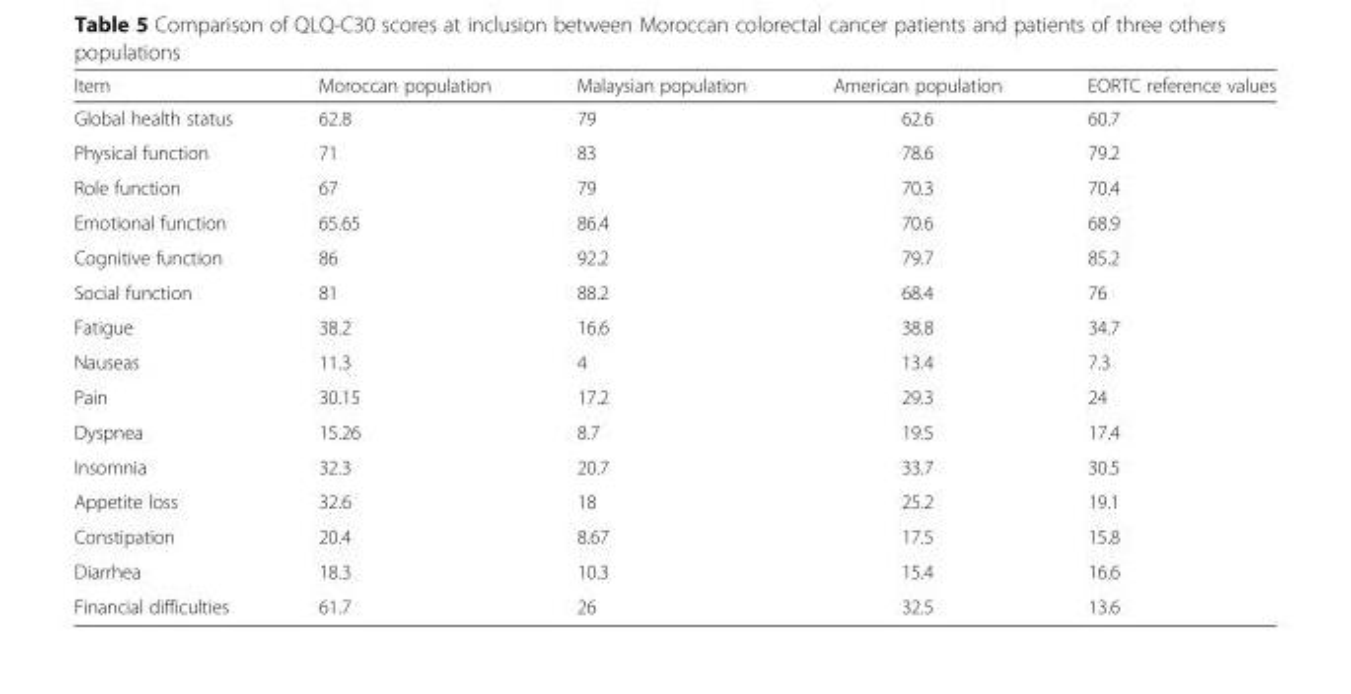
<table><thead><tr><td>Item</td><td>Moroccan population</td><td>Malaysian population</td><td>American population</td><td>EORTC reference values</td></tr></thead><tbody><tr><td>Global health status</td><td>62.8</td><td>79</td><td>62.6</td><td>60.7</td></tr><tr><td>Physical function</td><td>71</td><td>83</td><td>78.6</td><td>79.2</td></tr><tr><td>Role function</td><td>67</td><td>79</td><td>70.3</td><td>70.4</td></tr><tr><td>Emotional function</td><td>65.65</td><td>86.4</td><td>70.6</td><td>68.9</td></tr><tr><td>Cognitive function</td><td>86</td><td>92.2</td><td>79.7</td><td>85.2</td></tr><tr><td>Social function</td><td>81</td><td>88.2</td><td>68.4</td><td>76</td></tr><tr><td>Fatigue</td><td>38.2</td><td>16.6</td><td>38.8</td><td>34.7</td></tr><tr><td>Nauseas</td><td>11.3</td><td>4</td><td>13.4</td><td>7.3</td></tr><tr><td>Pain</td><td>30.15</td><td>17.2</td><td>29.3</td><td>24</td></tr><tr><td>Dyspnea</td><td>15.26</td><td>8.7</td><td>19.5</td><td>17.4</td></tr><tr><td>Insomnia</td><td>32.3</td><td>20.7</td><td>33.7</td><td>30.5</td></tr><tr><td>Appetite loss</td><td>32.6</td><td>18</td><td>25.2</td><td>19.1</td></tr><tr><td>Constipation</td><td>20.4</td><td>8.67</td><td>17.5</td><td>15.8</td></tr><tr><td>Diarrhea</td><td>18.3</td><td>10.3</td><td>15.4</td><td>16.6</td></tr><tr><td>Financial difficulties</td><td>61.7</td><td>26</td><td>32.5</td><td>13.6</td></tr></tbody></table>